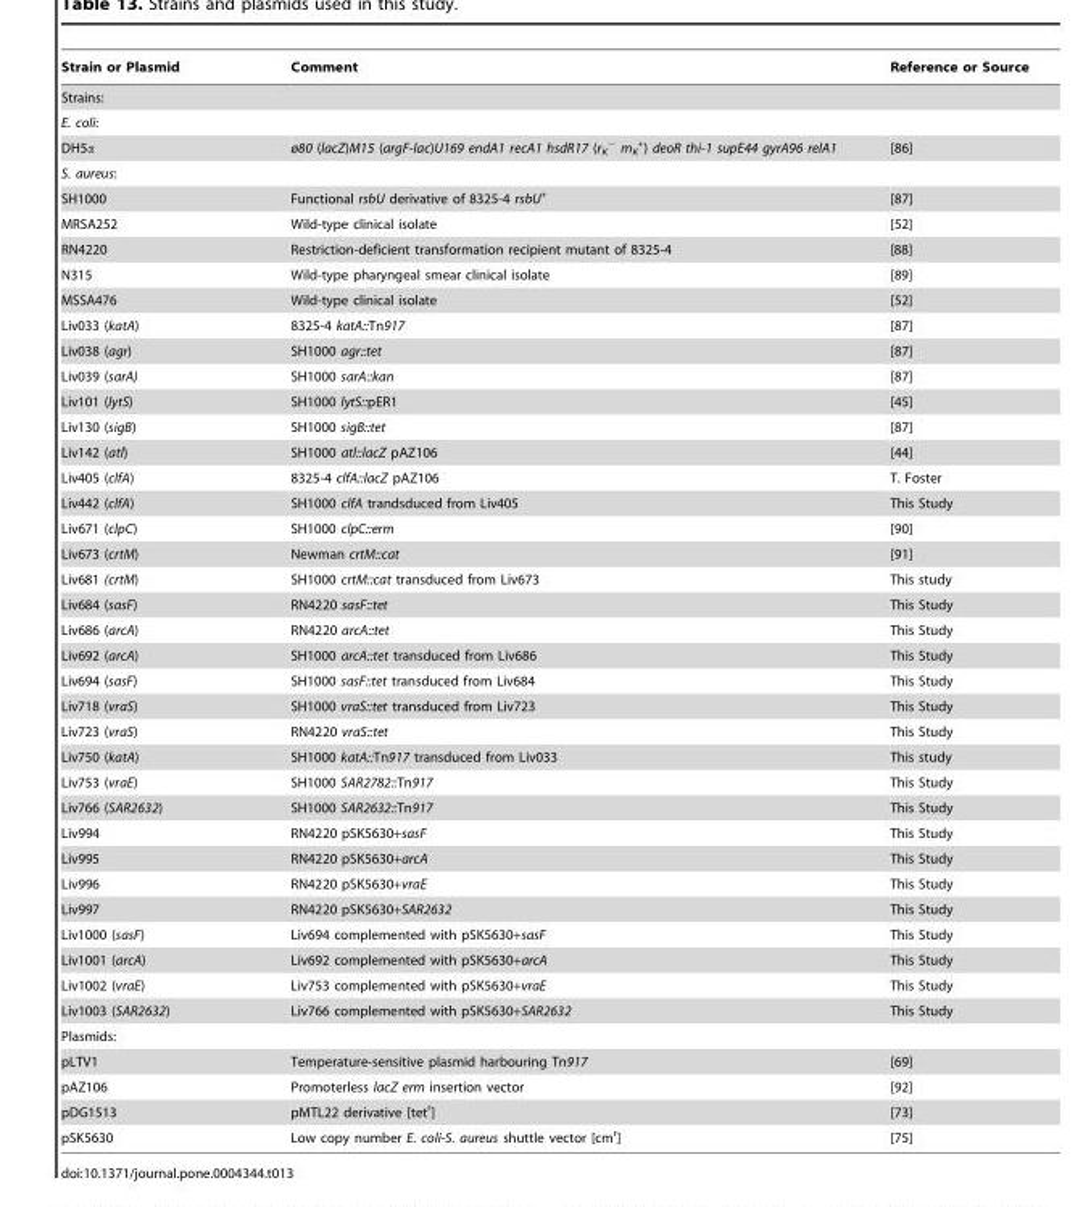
<table><thead><tr><td>Strain or Plasmid</td><td>Comment</td><td>Reference or Source</td></tr></thead><tbody><tr><td colspan="3">Strains:</td></tr><tr><td colspan="3">E. coli:</td></tr><tr><td>DH5α</td><td>ø80 (lacZ)M15 (argF-lac)U169 endA1 recA1 hsdR17 (r<sub>K</sub> <sup>−</sup> m<sub>K</sub> <sup>+</sup>) deoR thi-1 supE44 gyrA96 relA1</td><td>[86]</td></tr><tr><td colspan="3">S. aureus:</td></tr><tr><td>SH1000</td><td>Functional rsbU derivative of 8325-4 rsbU<sup>+</sup></td><td>[87]</td></tr><tr><td>MRSA252</td><td>Wild-type clinical isolate</td><td>[52]</td></tr><tr><td>RN4220</td><td>Restriction-deficient transformation recipient mutant of 8325-4</td><td>[88]</td></tr><tr><td>N315</td><td>Wild-type pharyngeal smear clinical isolate</td><td>[89]</td></tr><tr><td>MSSA476</td><td>Wild-type clinical isolate</td><td>[52]</td></tr><tr><td>Liv033 (katA)</td><td>8325-4 katA::Tn917</td><td>[87]</td></tr><tr><td>Liv038 (agr)</td><td>SH1000 agr::tet</td><td>[87]</td></tr><tr><td>Liv039 (sarA)</td><td>SH1000 sarA::kan</td><td>[87]</td></tr><tr><td>Liv101 (lytS)</td><td>SH1000 lytS::pER1</td><td>[45]</td></tr><tr><td>Liv130 (sigB)</td><td>SH1000 sigB::tet</td><td>[87]</td></tr><tr><td>Liv142 (atl)</td><td>SH1000 atl::lacZ pAZ106</td><td>[44]</td></tr><tr><td>Liv405 (clfA)</td><td>8325-4 clfA::lacZ pAZ106</td><td>T. Foster</td></tr><tr><td>Liv442 (clfA)</td><td>SH1000 clfA trandsduced from Liv405</td><td>This Study</td></tr><tr><td>Liv671 (clpC)</td><td>SH1000 clpC::erm</td><td>[90]</td></tr><tr><td>Liv673 (crtM)</td><td>Newman crtM::cat</td><td>[91]</td></tr><tr><td>Liv681 (crtM)</td><td>SH1000 crtM::cat transduced from Liv673</td><td>This study</td></tr><tr><td>Liv684 (sasF)</td><td>RN4220 sasF::tet</td><td>This Study</td></tr><tr><td>Liv686 (arcA)</td><td>RN4220 arcA::tet</td><td>This Study</td></tr><tr><td>Liv692 (arcA)</td><td>SH1000 arcA::tet transduced from Liv686</td><td>This Study</td></tr><tr><td>Liv694 (sasF)</td><td>SH1000 sasF::tet transduced from Liv684</td><td>This Study</td></tr><tr><td>Liv718 (vraS)</td><td>SH1000 vraS::tet transduced from Liv723</td><td>This Study</td></tr><tr><td>Liv723 (vraS)</td><td>RN4220 vraS::tet</td><td>This Study</td></tr><tr><td>Liv750 (katA)</td><td>SH1000 katA::Tn917 transduced from Liv033</td><td>This study</td></tr><tr><td>Liv753 (vraE)</td><td>SH1000 SAR2782::Tn917</td><td>This Study</td></tr><tr><td>Liv766 (SAR2632)</td><td>SH1000 SAR2632::Tn917</td><td>This Study</td></tr><tr><td>Liv994</td><td>RN4220 pSK5630+sasF</td><td>This Study</td></tr><tr><td>Liv995</td><td>RN4220 pSK5630+arcA</td><td>This Study</td></tr><tr><td>Liv996</td><td>RN4220 pSK5630+vraE</td><td>This Study</td></tr><tr><td>Liv997</td><td>RN4220 pSK5630+SAR2632</td><td>This Study</td></tr><tr><td>Liv1000 (sasF)</td><td>Liv694 complemented with pSK5630+sasF</td><td>This Study</td></tr><tr><td>Liv1001 (arcA)</td><td>Liv692 complemented with pSK5630+arcA</td><td>This Study</td></tr><tr><td>Liv1002 (vraE)</td><td>Liv753 complemented with pSK5630+vraE</td><td>This Study</td></tr><tr><td>Liv1003 (SAR2632)</td><td>Liv766 complemented with pSK5630+SAR2632</td><td>This Study</td></tr><tr><td colspan="3">Plasmids:</td></tr><tr><td>pLTV1</td><td>Temperature-sensitive plasmid harbouring Tn917</td><td>[69]</td></tr><tr><td>pAZ106</td><td>Promoterless lacZ erm insertion vector</td><td>[92]</td></tr><tr><td>pDG1513</td><td>pMTL22 derivative [tet<sup>r</sup>]</td><td>[73]</td></tr><tr><td>pSK5630</td><td>Low copy number E. coli-S. aureus shuttle vector [cm<sup>r</sup>]</td><td>[75]</td></tr></tbody></table>